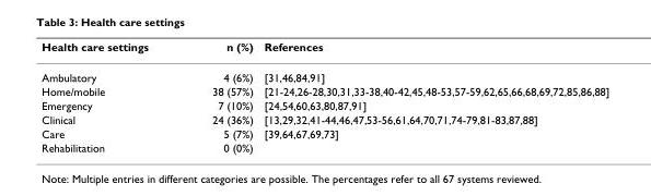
<table><thead><tr><td>Health care settings</td><td>n (%)</td><td>References</td></tr></thead><tbody><tr><td>Ambulatory</td><td>4 (6%)</td><td>[31,46,84,91]</td></tr><tr><td>Home/mobile</td><td>38 (57%)</td><td>[21-24,26-28,30,31,33-38,40-42,45,48-53,57-59,62,65,66,68,69,72,85,86,88]</td></tr><tr><td>Emergency</td><td>7 (10%)</td><td>[24,54,60,63,80,87,91]</td></tr><tr><td>Clinical</td><td>24 (36%)</td><td>[13,29,32,41-44,46,47,53-56,61,64,70,71,74-79,81-83,87,88]</td></tr><tr><td>Care</td><td>5 (7%)</td><td>[39,64,67,69,73]</td></tr><tr><td>Rehabilitation</td><td>0 (0%)</td><td></td></tr></tbody></table>